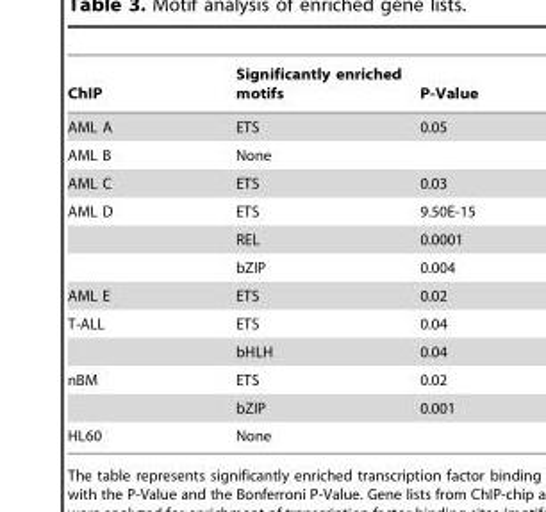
<table><thead><tr><td>ChIP</td><td>Significantly enriched motifs</td><td>P-Value</td></tr></thead><tbody><tr><td>AML A</td><td>ETS</td><td>0.05</td></tr><tr><td>AML B</td><td>None</td><td></td></tr><tr><td>AML C</td><td>ETS</td><td>0.03</td></tr><tr><td rowspan="3">AML D</td><td>ETS</td><td>9.50E-15</td></tr><tr><td>REL</td><td>0.0001</td></tr><tr><td>bZIP</td><td>0.004</td></tr><tr><td>AML E</td><td>ETS</td><td>0.02</td></tr><tr><td rowspan="2">T-ALL</td><td>ETS</td><td>0.04</td></tr><tr><td>bHLH</td><td>0.04</td></tr><tr><td rowspan="2">nBM</td><td>ETS</td><td>0.02</td></tr><tr><td>bZIP</td><td>0.001</td></tr><tr><td>HL60</td><td>None</td><td></td></tr></tbody></table>